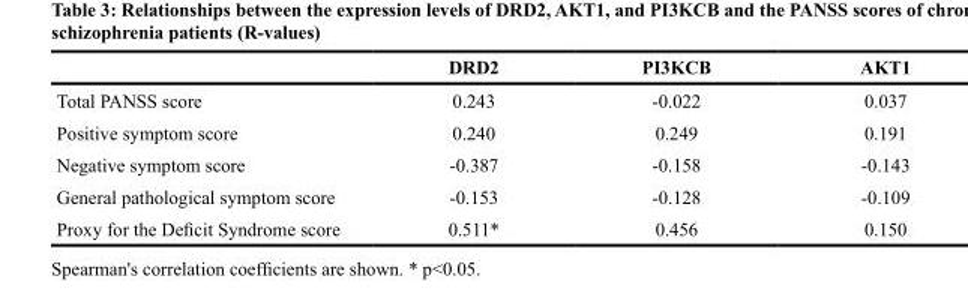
<table><thead><tr><td></td><td>DRD2</td><td>PI3KCB</td><td>AKT1</td></tr></thead><tbody><tr><td>Total PANSS score</td><td>0.243</td><td>-0.022</td><td>0.037</td></tr><tr><td>Positive symptom score</td><td>0.240</td><td>0.249</td><td>0.191</td></tr><tr><td>Negative symptom score</td><td>-0.387</td><td>-0.158</td><td>-0.143</td></tr><tr><td>General pathological symptom score</td><td>-0.153</td><td>-0.128</td><td>-0.109</td></tr><tr><td>Proxy for the Deficit Syndrome score</td><td>0.511*</td><td>0.456</td><td>0.150</td></tr></tbody></table>